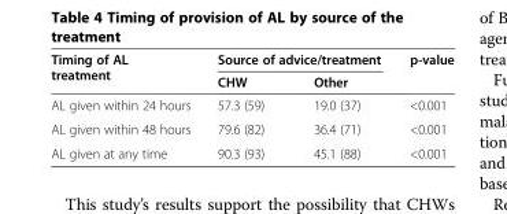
<table><thead><tr><td rowspan="2">Timing of AL treatment</td><td colspan="2">Source of advice/treatment</td><td rowspan="2">p-value</td></tr><tr><td>CHW</td><td>Other</td></tr></thead><tbody><tr><td>AL given within 24 hours</td><td>57.3 (59)</td><td>19.0 (37)</td><td>&lt;0.001</td></tr><tr><td>AL given within 48 hours</td><td>79.6 (82)</td><td>36.4 (71)</td><td>&lt;0.001</td></tr><tr><td>AL given at any time</td><td>90.3 (93)</td><td>45.1 (88)</td><td>&lt;0.001</td></tr></tbody></table>